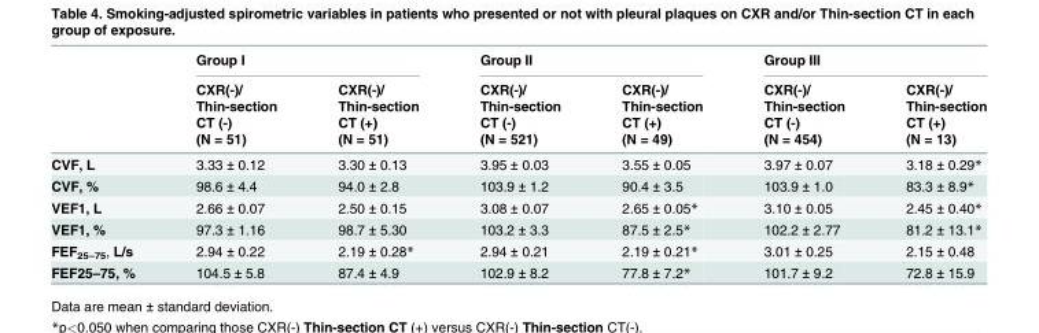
<table><thead><tr><td rowspan="5"></td><td colspan="2">Group I</td><td colspan="2">Group II</td><td colspan="2">Group III</td></tr><tr><td rowspan="4">CXR(-)/ Thin-section CT (-) (N = 51)</td><td rowspan="4">CXR(-)/ Thin-section CT (+) (N = 51)</td><td rowspan="4">CXR(-)/ Thin-section CT (-) (N = 521)</td><td rowspan="4">CXR(-)/ Thin-section CT (+) (N = 49)</td><td rowspan="4">CXR(-)/ Thin-section CT (-) (N = 454)</td><td rowspan="4">CXR(-)/ Thin-section CT (+) (N = 13)</td></tr><tr></tr><tr></tr><tr></tr></thead><tbody><tr><td>CVF, L</td><td>3.33 ± 0.12</td><td>3.30 ± 0.13</td><td>3.95 ± 0.03</td><td>3.55 ± 0.05</td><td>3.97 ± 0.07</td><td>3.18 ± 0.29*</td></tr><tr><td>CVF, %</td><td>98.6 ± 4.4</td><td>94.0 ± 2.8</td><td>103.9 ± 1.2</td><td>90.4 ± 3.5</td><td>103.9 ± 1.0</td><td>83.3 ± 8.9*</td></tr><tr><td>VEF1, L</td><td>2.66 ± 0.07</td><td>2.50 ± 0.15</td><td>3.08 ± 0.07</td><td>2.65 ± 0.05*</td><td>3.10 ± 0.05</td><td>2.45 ± 0.40*</td></tr><tr><td>VEF1, %</td><td>97.3 ± 1.16</td><td>98.7 ± 5.30</td><td>103.2 ± 3.3</td><td>87.5 ± 2.5*</td><td>102.2 ± 2.77</td><td>81.2 ± 13.1*</td></tr><tr><td>FEF<sub>25–75</sub>, L/s</td><td>2.94 ± 0.22</td><td>2.19 ± 0.28*</td><td>2.94 ± 0.21</td><td>2.19 ± 0.21*</td><td>3.01 ± 0.25</td><td>2.15 ± 0.48</td></tr><tr><td>FEF25–75, %</td><td>104.5 ± 5.8</td><td>87.4 ± 4.9</td><td>102.9 ± 8.2</td><td>77.8 ± 7.2*</td><td>101.7 ± 9.2</td><td>72.8 ± 15.9</td></tr></tbody></table>